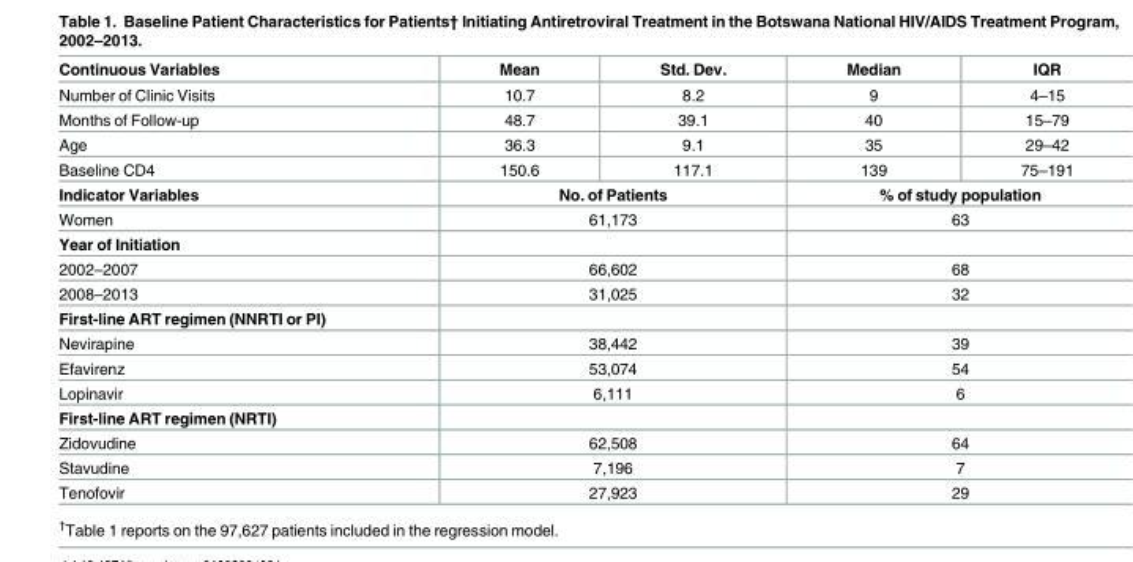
<table><thead><tr><td>Continuous Variables</td><td>Mean</td><td>Std. Dev.</td><td>Median</td><td>IQR</td></tr></thead><tbody><tr><td>Number of Clinic Visits</td><td>10.7</td><td>8.2</td><td>9</td><td>4–15</td></tr><tr><td>Months of Follow-up</td><td>48.7</td><td>39.1</td><td>40</td><td>15–79</td></tr><tr><td>Age</td><td>36.3</td><td>9.1</td><td>35</td><td>29–42</td></tr><tr><td>Baseline CD4</td><td>150.6</td><td>117.1</td><td>139</td><td>75–191</td></tr><tr><td>Indicator Variables</td><td colspan="2">No. of Patients</td><td colspan="2">% of study population</td></tr><tr><td>Women</td><td colspan="2">61,173</td><td colspan="2">63</td></tr><tr><td colspan="5">Year of Initiation</td></tr><tr><td>2002–2007</td><td colspan="2">66,602</td><td colspan="2">68</td></tr><tr><td>2008–2013</td><td colspan="2">31,025</td><td colspan="2">32</td></tr><tr><td colspan="5">First-line ART regimen (NNRTI or PI)</td></tr><tr><td>Nevirapine</td><td colspan="2">38,442</td><td colspan="2">39</td></tr><tr><td>Efavirenz</td><td colspan="2">53,074</td><td colspan="2">54</td></tr><tr><td>Lopinavir</td><td colspan="2">6,111</td><td colspan="2">6</td></tr><tr><td colspan="5">First-line ART regimen (NRTI)</td></tr><tr><td>Zidovudine</td><td colspan="2">62,508</td><td colspan="2">64</td></tr><tr><td>Stavudine</td><td colspan="2">7,196</td><td colspan="2">7</td></tr><tr><td>Tenofovir</td><td colspan="2">27,923</td><td colspan="2">29</td></tr></tbody></table>